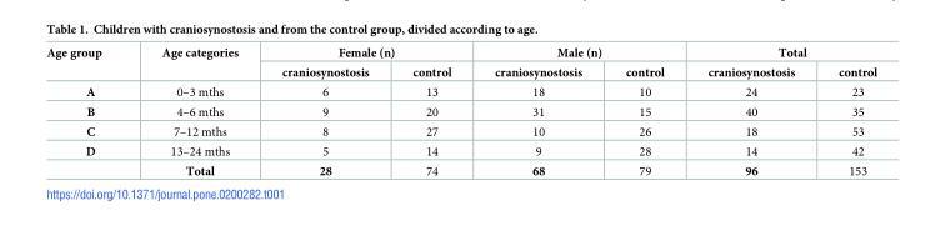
<table><thead><tr><td rowspan="2">Age group</td><td rowspan="2">Age categories</td><td colspan="2">Female (n)</td><td colspan="2">Male (n)</td><td colspan="2">Total</td></tr><tr><td>craniosynostosis</td><td>control</td><td>craniosynostosis</td><td>control</td><td>craniosynostosis</td><td>control</td></tr></thead><tbody><tr><td>A</td><td>0–3 mths</td><td>6</td><td>13</td><td>18</td><td>10</td><td>24</td><td>23</td></tr><tr><td>B</td><td>4–6 mths</td><td>9</td><td>20</td><td>31</td><td>15</td><td>40</td><td>35</td></tr><tr><td>C</td><td>7–12 mths</td><td>8</td><td>27</td><td>10</td><td>26</td><td>18</td><td>53</td></tr><tr><td rowspan="2">D</td><td>13–24 mths</td><td>5</td><td>14</td><td>9</td><td>28</td><td>14</td><td>42</td></tr><tr><td>Total</td><td>28</td><td>74</td><td>68</td><td>79</td><td>96</td><td>153</td></tr></tbody></table>